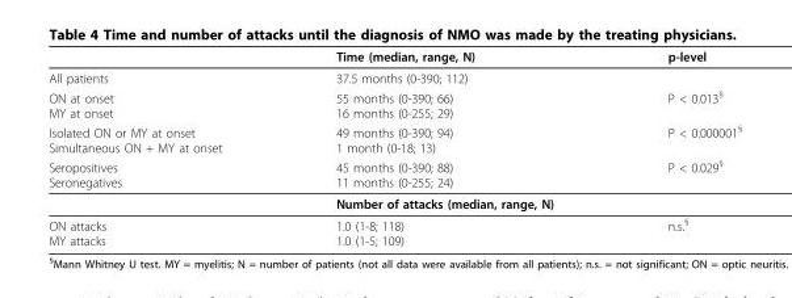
<table><thead><tr><td></td><td>Time (median, range, N)</td><td>p-level</td></tr></thead><tbody><tr><td>All patients</td><td>37.5 months (0-390; 112)</td><td></td></tr><tr><td>ON at onset MY at onset</td><td>55 months (0-390; 66) 16 months (0-255; 29)</td><td>P &lt; 0.013<sup>§</sup></td></tr><tr><td>Isolated ON or MY at onset Simultaneous ON + MY at onset</td><td>49 months (0-390; 94) 1 month (0-18; 13)</td><td>P &lt; 0.000001<sup>§</sup></td></tr><tr><td rowspan="2">Seropositives Seronegatives</td><td>45 months (0-390; 88) 11 months (0-255; 24)</td><td>P &lt; 0.029<sup>§</sup></td></tr><tr><td>Number of attacks (median, range, N)</td><td></td></tr><tr><td>ON attacks MY attacks</td><td>1.0 (1-8; 118) 1.0 (1-5; 109)</td><td>n.s.<sup>§</sup></td></tr></tbody></table>